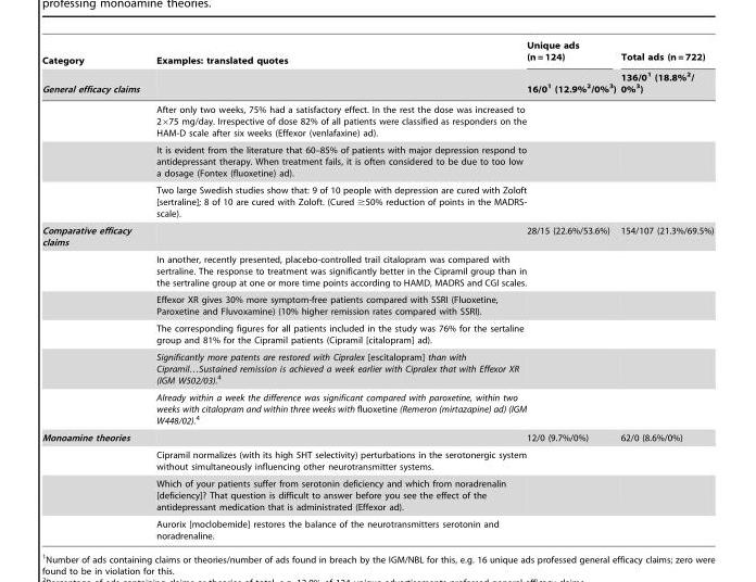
<table><thead><tr><td rowspan="2">Category General efficacy claims</td><td rowspan="2">Examples: translated quotes</td><td rowspan="2">Unique ads (n = 124) 16/0<sup>1</sup> (12.9%<sup>2</sup>/0%<sup>3</sup>)</td><td rowspan="2">Total ads (n = 722) 136/0<sup>1</sup> (18.8%<sup>2</sup>/ 0%<sup>3</sup>)</td></tr><tr></tr></thead><tbody><tr><td></td><td>After only two weeks, 75% had a satisfactory effect. In the rest the dose was increased to 2×75 mg/day. Irrespective of dose 82% of all patients were classified as responders on the HAM-D scale after six weeks (Effexor (venlafaxine) ad).</td><td></td><td></td></tr><tr><td></td><td>It is evident from the literature that 60–85% of patients with major depression respond to antidepressant therapy. When treatment fails, it is often considered to be due to too low a dosage (Fontex (fluoxetine) ad).</td><td></td><td></td></tr><tr><td></td><td>Two large Swedish studies show that: 9 of 10 people with depression are cured with Zoloft [sertraline]; 8 of 10 are cured with Zoloft. (Cured ≥50% reduction of points in the MADRS- scale).</td><td></td><td></td></tr><tr><td rowspan="6">Comparative efficacy claims</td><td></td><td>28/15 (22.6%/53.6%)</td><td>154/107 (21.3%/69.5%)</td></tr><tr><td>In another, recently presented, placebo-controlled trail citalopram was compared with sertraline. The response to treatment was significantly better in the Cipramil group than in the sertraline group at one or more time points according to HAMD, MADRS and CGI scales.</td><td></td><td></td></tr><tr><td>Effexor XR gives 30% more symptom-free patients compared with SSRI (Fluoxetine, Paroxetine and Fluvoxamine) (10% higher remission rates compared with SSRI).</td><td></td><td></td></tr><tr><td>The corresponding figures for all patients included in the study was 76% for the sertaline group and 81% for the Cipramil patients (Cipramil [citalopram] ad).</td><td></td><td></td></tr><tr><td>Significantly more patents are restored with Cipralex [escitalopram] than with Cipramil…Sustained remission is achieved a week earlier with Cipralex that with Effexor XR (IGM W502/03).4</td><td></td><td></td></tr><tr><td>Already within a week the difference was significant compared with paroxetine, within two weeks with citalopram and within three weeks with fluoxetine (Remeron (mirtazapine) ad) (IGM W448/02).4</td><td></td><td></td></tr><tr><td rowspan="4">Monoamine theories</td><td></td><td>12/0 (9.7%/0%)</td><td>62/0 (8.6%/0%)</td></tr><tr><td>Cipramil normalizes (with its high 5HT selectivity) perturbations in the serotonergic system without simultaneously influencing other neurotransmitter systems.</td><td></td><td></td></tr><tr><td>Which of your patients suffer from serotonin deficiency and which from noradrenalin [deficiency]? That question is difficult to answer before you see the effect of the antidepressant medication that is administrated (Effexor ad).</td><td></td><td></td></tr><tr><td>Aurorix [moclobemide] restores the balance of the neurotransmitters serotonin and noradrenaline.</td><td></td><td></td></tr></tbody></table>